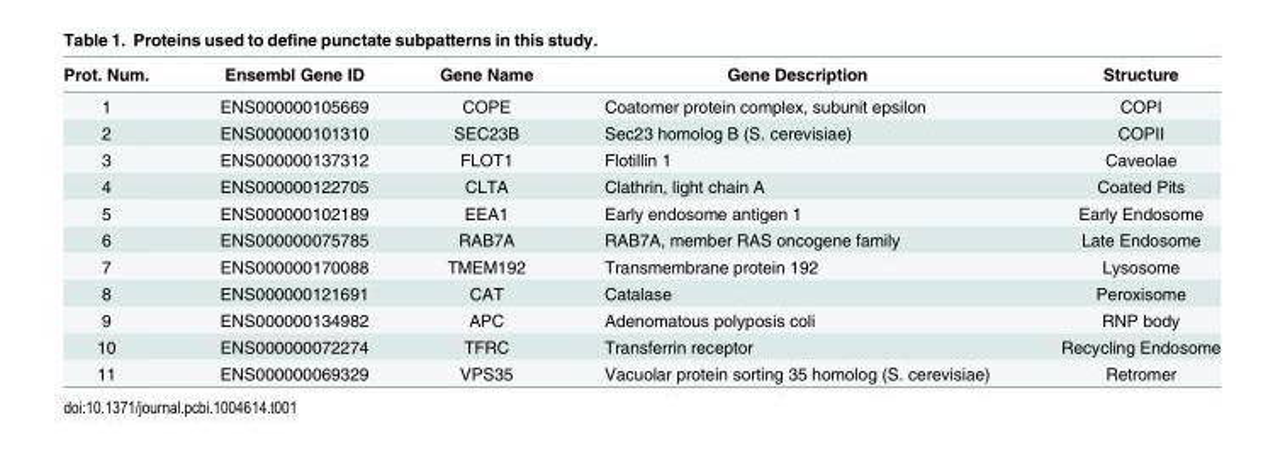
<table><thead><tr><td>Prot. Num.</td><td>Ensembl Gene ID</td><td>Gene Name</td><td>Gene Description</td><td>Structure</td></tr></thead><tbody><tr><td>1</td><td>ENS000000105669</td><td>COPE</td><td>Coatomer protein complex, subunit epsilon</td><td>COPI</td></tr><tr><td>2</td><td>ENS000000101310</td><td>SEC23B</td><td>Sec23 homolog B (S. cerevisiae)</td><td>COPII</td></tr><tr><td>3</td><td>ENS000000137312</td><td>FLOT1</td><td>Flotillin 1</td><td>Caveolae</td></tr><tr><td>4</td><td>ENS000000122705</td><td>CLTA</td><td>Clathrin, light chain A</td><td>Coated Pits</td></tr><tr><td>5</td><td>ENS000000102189</td><td>EEA1</td><td>Early endosome antigen 1</td><td>Early Endosome</td></tr><tr><td>6</td><td>ENS000000075785</td><td>RAB7A</td><td>RAB7A, member RAS oncogene family</td><td>Late Endosome</td></tr><tr><td>7</td><td>ENS000000170088</td><td>TMEM192</td><td>Transmembrane protein 192</td><td>Lysosome</td></tr><tr><td>8</td><td>ENS000000121691</td><td>CAT</td><td>Catalase</td><td>Peroxisome</td></tr><tr><td>9</td><td>ENS000000134982</td><td>APC</td><td>Adenomatous polyposis coli</td><td>RNP body</td></tr><tr><td>10</td><td>ENS000000072274</td><td>TFRC</td><td>Transferrin receptor</td><td>Recycling Endosome</td></tr><tr><td>11</td><td>ENS000000069329</td><td>VPS35</td><td>Vacuolar protein sorting 35 homolog (S. cerevisiae)</td><td>Retromer</td></tr></tbody></table>